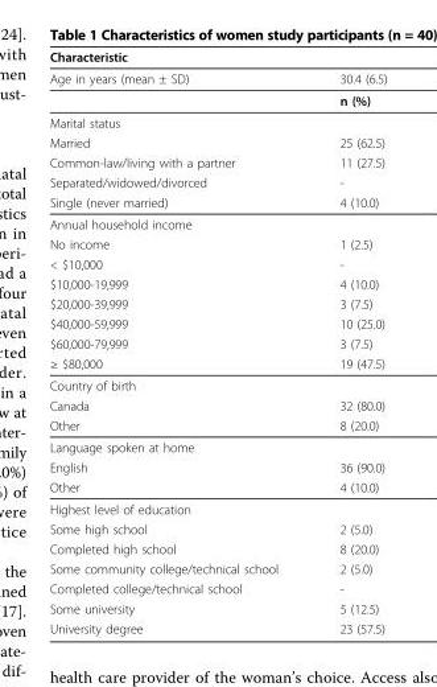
<table><thead><tr><td>Characteristic</td><td></td></tr></thead><tbody><tr><td rowspan="2">Age in years (mean ± SD)</td><td>30.4 (6.5)</td></tr><tr><td>n (%)</td></tr><tr><td colspan="2">Marital status</td></tr><tr><td>Married</td><td>25 (62.5)</td></tr><tr><td>Common-law/living with a partner</td><td>11 (27.5)</td></tr><tr><td>Separated/widowed/divorced</td><td>-</td></tr><tr><td>Single (never married)</td><td>4 (10.0)</td></tr><tr><td colspan="2">Annual household income</td></tr><tr><td>No income</td><td>1 (2.5)</td></tr><tr><td>&lt; $10,000</td><td>-</td></tr><tr><td>$10,000-19,999</td><td>4 (10.0)</td></tr><tr><td>$20,000-39,999</td><td>3 (7.5)</td></tr><tr><td>$40,000-59,999</td><td>10 (25.0)</td></tr><tr><td>$60,000-79,999</td><td>3 (7.5)</td></tr><tr><td>≥ $80,000</td><td>19 (47.5)</td></tr><tr><td colspan="2">Country of birth</td></tr><tr><td>Canada</td><td>32 (80.0)</td></tr><tr><td>Other</td><td>8 (20.0)</td></tr><tr><td colspan="2">Language spoken at home</td></tr><tr><td>English</td><td>36 (90.0)</td></tr><tr><td>Other</td><td>4 (10.0)</td></tr><tr><td colspan="2">Highest level of education</td></tr><tr><td>Some high school</td><td>2 (5.0)</td></tr><tr><td>Completed high school</td><td>8 (20.0)</td></tr><tr><td>Some community college/technical school</td><td>2 (5.0)</td></tr><tr><td>Completed college/technical school</td><td>-</td></tr><tr><td>Some university</td><td>5 (12.5)</td></tr><tr><td>University degree</td><td>23 (57.5)</td></tr></tbody></table>